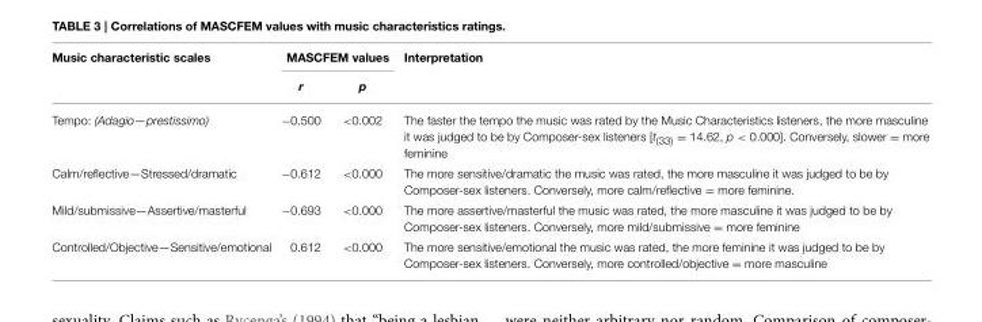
<table><thead><tr><td rowspan="2">Music characteristic scales</td><td colspan="2">MASCFEM values</td><td rowspan="2">Interpretation</td></tr><tr><td>r</td><td>p</td></tr></thead><tbody><tr><td>Tempo: (Adagio—prestissimo)</td><td>−0.500</td><td>&lt;0.002</td><td>The faster the tempo the music was rated by the Music Characteristics listeners, the more masculine it was judged to be by Composer-sex listeners [t<sub>(33)</sub> = 14.62, p &lt; 0.000]. Conversely, slower = more feminine</td></tr><tr><td>Calm/reflective—Stressed/dramatic</td><td>−0.612</td><td>&lt;0.000</td><td>The more sensitive/dramatic the music was rated, the more masculine it was judged to be by Composer-sex listeners. Conversely, more calm/reflective = more feminine.</td></tr><tr><td>Mild/submissive—Assertive/masterful</td><td>−0.693</td><td>&lt;0.000</td><td>The more assertive/masterful the music was rated, the more masculine it was judged to be by Composer-sex listeners. Conversely, more mild/submissive = more feminine</td></tr><tr><td>Controlled/Objective—Sensitive/emotional</td><td>0.612</td><td>&lt;0.000</td><td>The more sensitive/emotional the music was rated, the more feminine it was judged to be by Composer-sex listeners. Conversely, more controlled/objective = more masculine</td></tr></tbody></table>